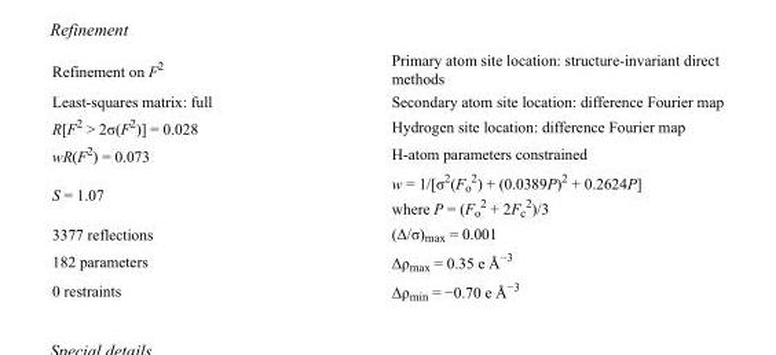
<table><tbody><tr><td>Refinement on F<sup>2</sup></td><td>Primary atom site location: structure-invariant direct methods</td></tr><tr><td>Least-squares matrix: full</td><td>Secondary atom site location: difference Fourier map</td></tr><tr><td>R[F<sup>2</sup> &gt; 2σ(F<sup>2</sup>)] = 0.028</td><td>Hydrogen site location: difference Fourier map</td></tr><tr><td>wR(F<sup>2</sup>) = 0.073</td><td>H-atom parameters constrained</td></tr><tr><td>S = 1.07</td><td>w = 1/[σ<sup>2</sup>(F<sub>o</sub> <sup>2</sup>) + (0.0389P)<sup>2</sup> + 0.2624P] where P = (F<sub>o</sub> <sup>2</sup> + 2F<sub>c</sub> <sup>2</sup>)/3</td></tr><tr><td>3377 reflections</td><td>(Δ/σ)<sub>max</sub> = 0.001</td></tr><tr><td>182 parameters</td><td>Δρ<sub>max</sub> = 0.35 e Å<sup>−3</sup></td></tr><tr><td>0 restraints</td><td>Δρ<sub>min</sub> = −0.70 e Å<sup>−3</sup></td></tr></tbody></table>